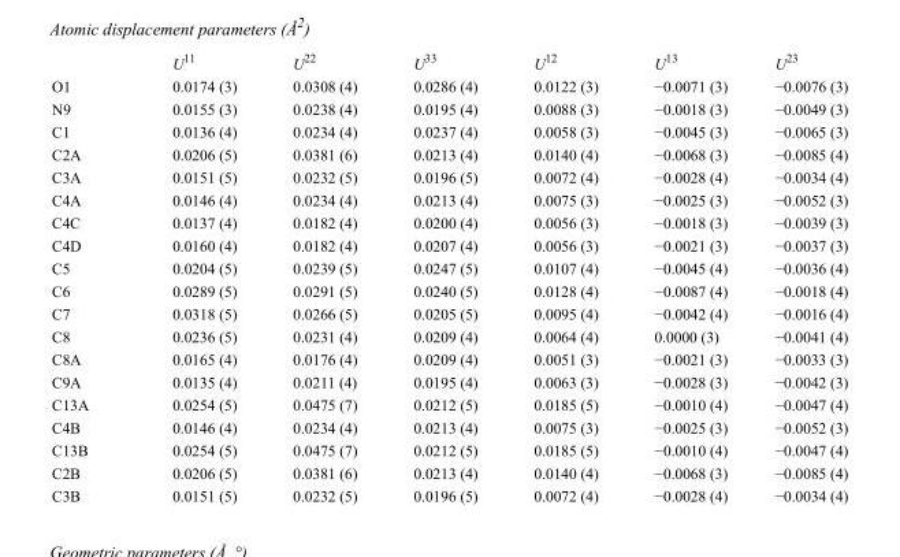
<table><thead><tr><td></td><td>U<sup>11</sup></td><td>U<sup>22</sup></td><td>U<sup>33</sup></td><td>U<sup>12</sup></td><td>U<sup>13</sup></td><td>U<sup>23</sup></td></tr></thead><tbody><tr><td>O1</td><td>0.0174 (3)</td><td>0.0308 (4)</td><td>0.0286 (4)</td><td>0.0122 (3)</td><td>−0.0071 (3)</td><td>−0.0076 (3)</td></tr><tr><td>N9</td><td>0.0155 (3)</td><td>0.0238 (4)</td><td>0.0195 (4)</td><td>0.0088 (3)</td><td>−0.0018 (3)</td><td>−0.0049 (3)</td></tr><tr><td>C1</td><td>0.0136 (4)</td><td>0.0234 (4)</td><td>0.0237 (4)</td><td>0.0058 (3)</td><td>−0.0045 (3)</td><td>−0.0065 (3)</td></tr><tr><td>C2A</td><td>0.0206 (5)</td><td>0.0381 (6)</td><td>0.0213 (4)</td><td>0.0140 (4)</td><td>−0.0068 (3)</td><td>−0.0085 (4)</td></tr><tr><td>C3A</td><td>0.0151 (5)</td><td>0.0232 (5)</td><td>0.0196 (5)</td><td>0.0072 (4)</td><td>−0.0028 (4)</td><td>−0.0034 (4)</td></tr><tr><td>C4A</td><td>0.0146 (4)</td><td>0.0234 (4)</td><td>0.0213 (4)</td><td>0.0075 (3)</td><td>−0.0025 (3)</td><td>−0.0052 (3)</td></tr><tr><td>C4C</td><td>0.0137 (4)</td><td>0.0182 (4)</td><td>0.0200 (4)</td><td>0.0056 (3)</td><td>−0.0018 (3)</td><td>−0.0039 (3)</td></tr><tr><td>C4D</td><td>0.0160 (4)</td><td>0.0182 (4)</td><td>0.0207 (4)</td><td>0.0056 (3)</td><td>−0.0021 (3)</td><td>−0.0037 (3)</td></tr><tr><td>C5</td><td>0.0204 (5)</td><td>0.0239 (5)</td><td>0.0247 (5)</td><td>0.0107 (4)</td><td>−0.0045 (4)</td><td>−0.0036 (4)</td></tr><tr><td>C6</td><td>0.0289 (5)</td><td>0.0291 (5)</td><td>0.0240 (5)</td><td>0.0128 (4)</td><td>−0.0087 (4)</td><td>−0.0018 (4)</td></tr><tr><td>C7</td><td>0.0318 (5)</td><td>0.0266 (5)</td><td>0.0205 (5)</td><td>0.0095 (4)</td><td>−0.0042 (4)</td><td>−0.0016 (4)</td></tr><tr><td>C8</td><td>0.0236 (5)</td><td>0.0231 (4)</td><td>0.0209 (4)</td><td>0.0064 (4)</td><td>0.0000 (3)</td><td>−0.0041 (4)</td></tr><tr><td>C8A</td><td>0.0165 (4)</td><td>0.0176 (4)</td><td>0.0209 (4)</td><td>0.0051 (3)</td><td>−0.0021 (3)</td><td>−0.0033 (3)</td></tr><tr><td>C9A</td><td>0.0135 (4)</td><td>0.0211 (4)</td><td>0.0195 (4)</td><td>0.0063 (3)</td><td>−0.0028 (3)</td><td>−0.0042 (3)</td></tr><tr><td>C13A</td><td>0.0254 (5)</td><td>0.0475 (7)</td><td>0.0212 (5)</td><td>0.0185 (5)</td><td>−0.0010 (4)</td><td>−0.0047 (4)</td></tr><tr><td>C4B</td><td>0.0146 (4)</td><td>0.0234 (4)</td><td>0.0213 (4)</td><td>0.0075 (3)</td><td>−0.0025 (3)</td><td>−0.0052 (3)</td></tr><tr><td>C13B</td><td>0.0254 (5)</td><td>0.0475 (7)</td><td>0.0212 (5)</td><td>0.0185 (5)</td><td>−0.0010 (4)</td><td>−0.0047 (4)</td></tr><tr><td>C2B</td><td>0.0206 (5)</td><td>0.0381 (6)</td><td>0.0213 (4)</td><td>0.0140 (4)</td><td>−0.0068 (3)</td><td>−0.0085 (4)</td></tr><tr><td>C3B</td><td>0.0151 (5)</td><td>0.0232 (5)</td><td>0.0196 (5)</td><td>0.0072 (4)</td><td>−0.0028 (4)</td><td>−0.0034 (4)</td></tr></tbody></table>